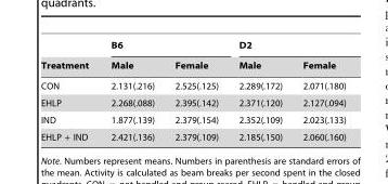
<table><thead><tr><td rowspan="2">Treatment</td><td colspan="2">B6</td><td colspan="2">D2</td></tr><tr><td>Male</td><td>Female</td><td>Male</td><td>Female</td></tr></thead><tbody><tr><td>CON</td><td>2.131(.216)</td><td>2.525(.125)</td><td>2.289(.172)</td><td>2.071(.180)</td></tr><tr><td>EHLP</td><td>2.268(.088)</td><td>2.395(.142)</td><td>2.371(.120)</td><td>2.127(.094)</td></tr><tr><td>IND</td><td>1.877(.139)</td><td>2.379(.154)</td><td>2.352(.109)</td><td>2.023(.133)</td></tr><tr><td>EHLP + IND</td><td>2.421(.136)</td><td>2.379(.109)</td><td>2.185(.150)</td><td>2.060(.160)</td></tr></tbody></table>